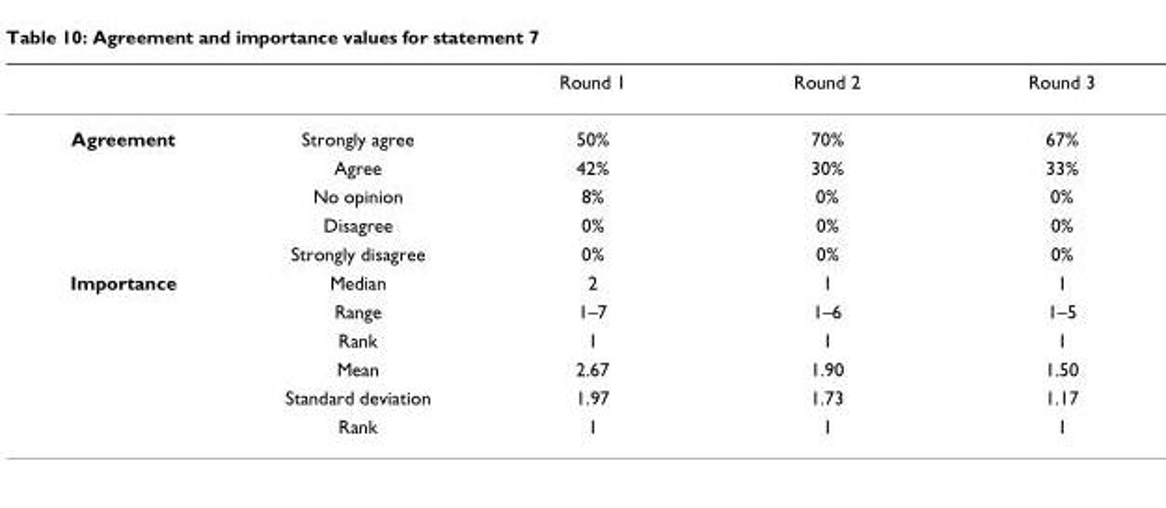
<table><thead><tr><td></td><td></td><td>Round 1</td><td>Round 2</td><td>Round 3</td></tr></thead><tbody><tr><td rowspan="5">Agreement</td><td>Strongly agree</td><td>50%</td><td>70%</td><td>67%</td></tr><tr><td>Agree</td><td>42%</td><td>30%</td><td>33%</td></tr><tr><td>No opinion</td><td>8%</td><td>0%</td><td>0%</td></tr><tr><td>Disagree</td><td>0%</td><td>0%</td><td>0%</td></tr><tr><td>Strongly disagree</td><td>0%</td><td>0%</td><td>0%</td></tr><tr><td rowspan="6">Importance</td><td>Median</td><td>2</td><td>1</td><td>1</td></tr><tr><td>Range</td><td>1–7</td><td>1–6</td><td>1–5</td></tr><tr><td>Rank</td><td>1</td><td>1</td><td>1</td></tr><tr><td>Mean</td><td>2.67</td><td>1.90</td><td>1.50</td></tr><tr><td>Standard deviation</td><td>1.97</td><td>1.73</td><td>1.17</td></tr><tr><td>Rank</td><td>1</td><td>1</td><td>1</td></tr></tbody></table>